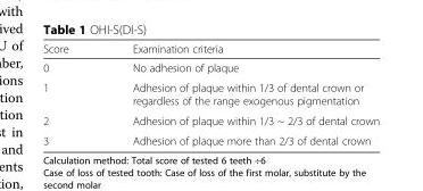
<table><thead><tr><td>Score</td><td>Examination criteria</td></tr></thead><tbody><tr><td>0</td><td>No adhesion of plaque</td></tr><tr><td>1</td><td>Adhesion of plaque within 1/3 of dental crown or regardless of the range exogenous pigmentation</td></tr><tr><td>2</td><td>Adhesion of plaque within 1/3 ~ 2/3 of dental crown</td></tr><tr><td>3</td><td>Adhesion of plaque more than 2/3 of dental crown</td></tr></tbody></table>